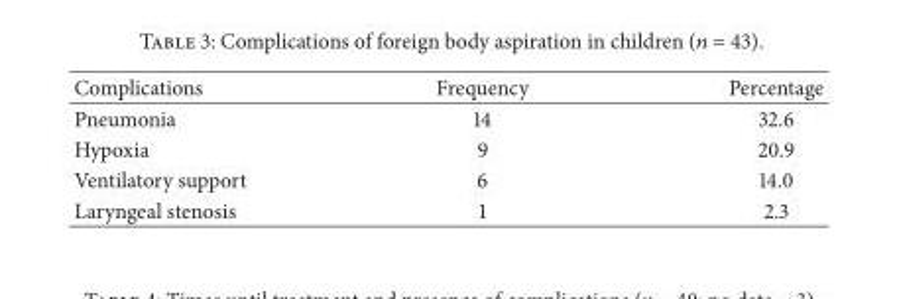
<table><thead><tr><td>Complications</td><td>Frequency</td><td>Percentage</td></tr></thead><tbody><tr><td>Pneumonia</td><td>14</td><td>32.6</td></tr><tr><td>Hypoxia</td><td>9</td><td>20.9</td></tr><tr><td>Ventilatory support</td><td>6</td><td>14.0</td></tr><tr><td>Laryngeal stenosis</td><td>1</td><td>2.3</td></tr></tbody></table>